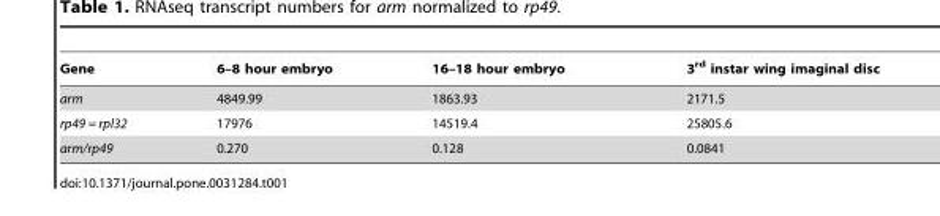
<table><thead><tr><td>Gene</td><td>6–8 hour embryo</td><td>16–18 hour embryo</td><td>3<sup>rd</sup> instar wing imaginal disc</td></tr></thead><tbody><tr><td>arm</td><td>4849.99</td><td>1863.93</td><td>2171.5</td></tr><tr><td>rp49 = rpl32</td><td>17976</td><td>14519.4</td><td>25805.6</td></tr><tr><td>arm/rp49</td><td>0.270</td><td>0.128</td><td>0.0841</td></tr></tbody></table>